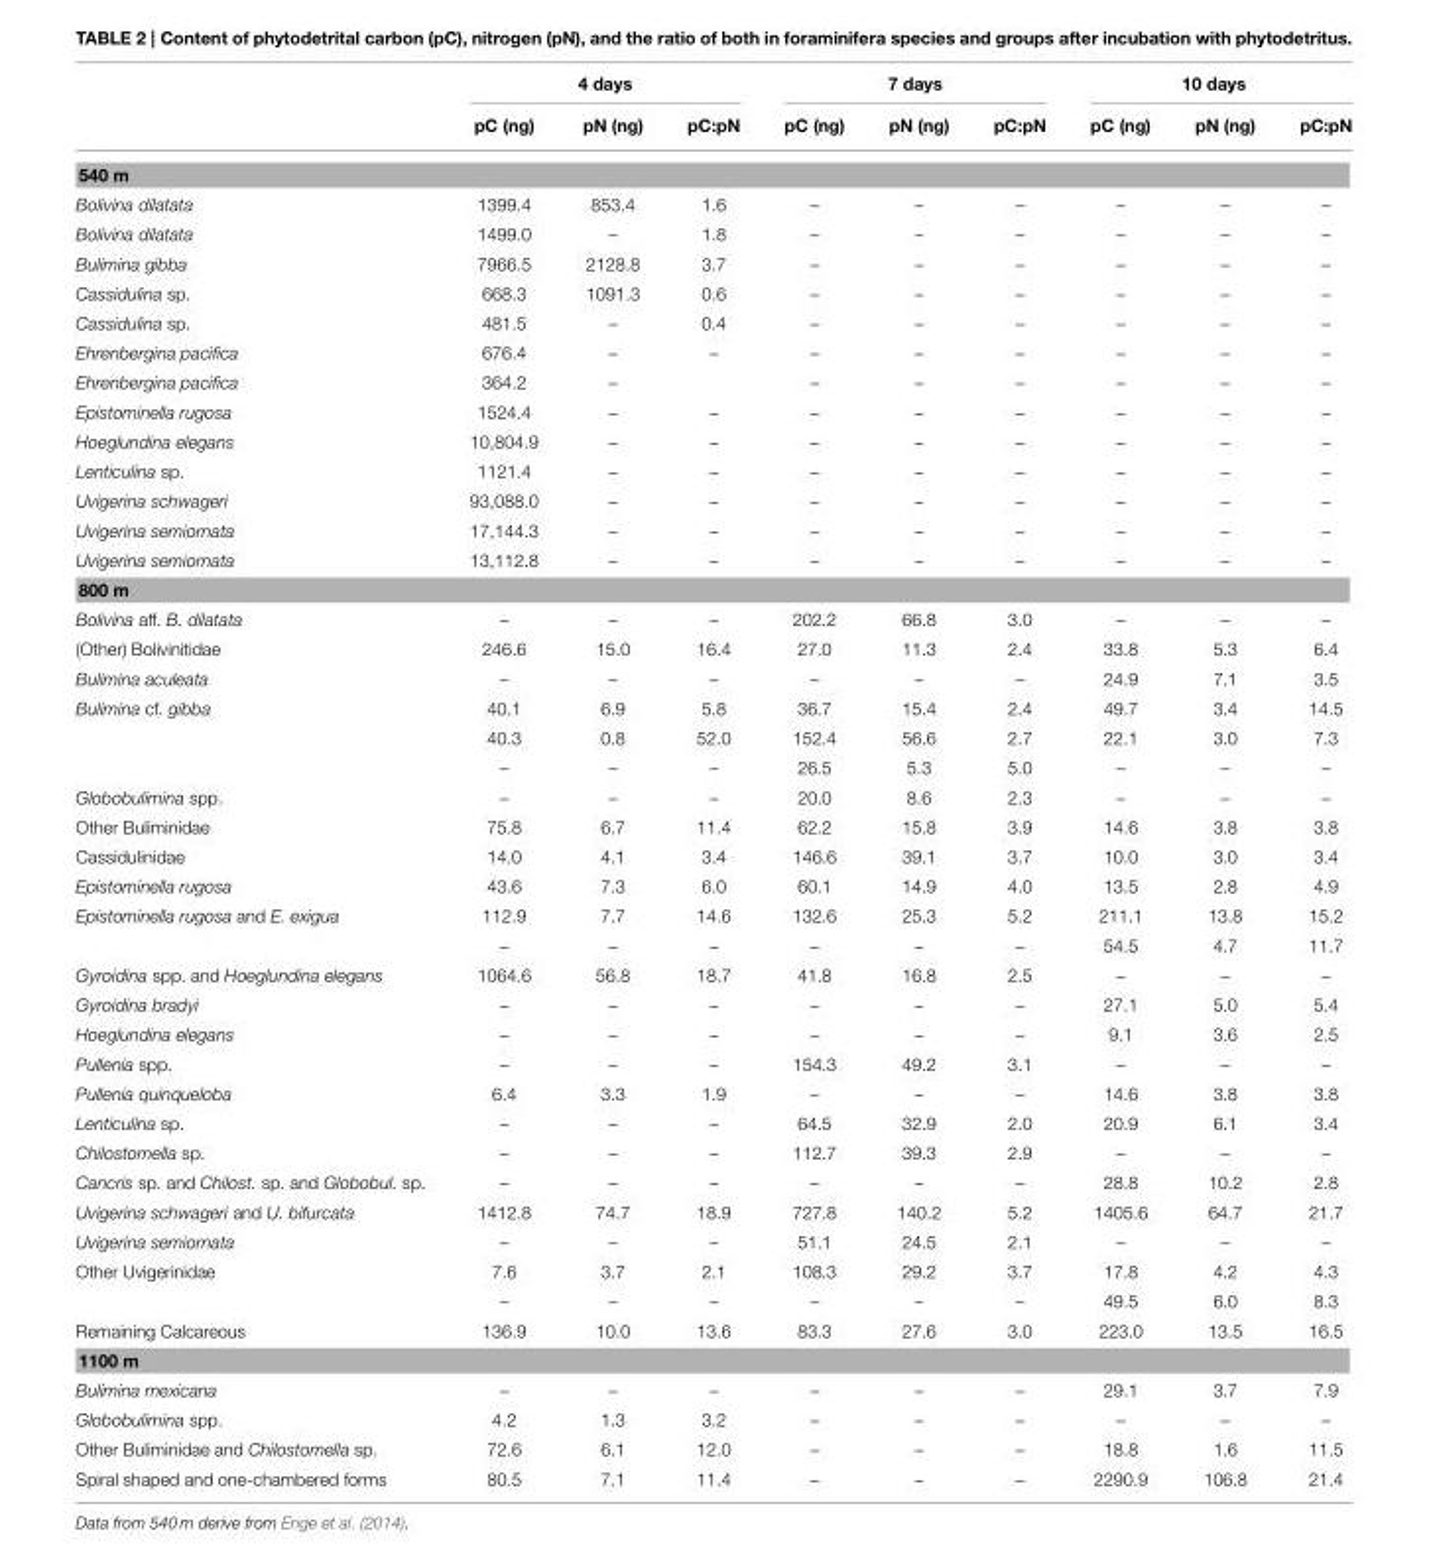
<table><thead><tr><td rowspan="2"></td><td colspan="3">4 days</td><td colspan="3">7 days</td><td colspan="3">10 days</td></tr><tr><td>pC (ng)</td><td>pN (ng)</td><td>pC:pN</td><td>pC (ng)</td><td>pN (ng)</td><td>pC:pN</td><td>pC (ng)</td><td>pN (ng)</td><td>pC:pN</td></tr></thead><tbody><tr><td colspan="10">540 m</td></tr><tr><td>Bolivina dilatata</td><td>1399.4</td><td>853.4</td><td>1.6</td><td>–</td><td>–</td><td>–</td><td>–</td><td>–</td><td>–</td></tr><tr><td>Bolivina dilatata</td><td>1499.0</td><td>–</td><td>1.8</td><td>–</td><td>–</td><td>–</td><td>–</td><td>–</td><td>–</td></tr><tr><td>Bulimina gibba</td><td>7966.5</td><td>2128.8</td><td>3.7</td><td>–</td><td>–</td><td>–</td><td>–</td><td>–</td><td>–</td></tr><tr><td>Cassidulina sp.</td><td>668.3</td><td>1091.3</td><td>0.6</td><td>–</td><td>–</td><td>–</td><td>–</td><td>–</td><td>–</td></tr><tr><td>Cassidulina sp.</td><td>481.5</td><td>–</td><td>0.4</td><td>–</td><td>–</td><td>–</td><td>–</td><td>–</td><td>–</td></tr><tr><td>Ehrenbergina pacifica</td><td>676.4</td><td>–</td><td>–</td><td>–</td><td>–</td><td>–</td><td>–</td><td>–</td><td>–</td></tr><tr><td>Ehrenbergina pacifica</td><td>364.2</td><td>–</td><td></td><td>–</td><td>–</td><td>–</td><td>–</td><td>–</td><td>–</td></tr><tr><td>Epistominella rugosa</td><td>1524.4</td><td>–</td><td>–</td><td>–</td><td>–</td><td>–</td><td>–</td><td>–</td><td>–</td></tr><tr><td>Hoeglundina elegans</td><td>10,804.9</td><td>–</td><td>–</td><td>–</td><td>–</td><td>–</td><td>–</td><td>–</td><td>–</td></tr><tr><td>Lenticulina sp.</td><td>1121.4</td><td>–</td><td>–</td><td>–</td><td>–</td><td>–</td><td>–</td><td>–</td><td>–</td></tr><tr><td>Uvigerina schwageri</td><td>93,088.0</td><td>–</td><td>–</td><td>–</td><td>–</td><td>–</td><td>–</td><td>–</td><td>–</td></tr><tr><td>Uvigerina semiornata</td><td>17,144.3</td><td>–</td><td>–</td><td>–</td><td>–</td><td>–</td><td>–</td><td>–</td><td>–</td></tr><tr><td>Uvigerina semiornata</td><td>13,112.8</td><td>–</td><td>–</td><td>–</td><td>–</td><td>–</td><td>–</td><td>–</td><td>–</td></tr><tr><td colspan="10">800 m</td></tr><tr><td>Bolivina aff. B. dilatata</td><td>–</td><td>–</td><td>–</td><td>202.2</td><td>66.8</td><td>3.0</td><td>–</td><td>–</td><td>–</td></tr><tr><td>(Other) Bolivinitidae</td><td>246.6</td><td>15.0</td><td>16.4</td><td>27.0</td><td>11.3</td><td>2.4</td><td>33.8</td><td>5.3</td><td>6.4</td></tr><tr><td>Bulimina aculeata</td><td>–</td><td>–</td><td>–</td><td>–</td><td>–</td><td>–</td><td>24.9</td><td>7.1</td><td>3.5</td></tr><tr><td rowspan="3">Bulimina cf. gibba</td><td>40.1</td><td>6.9</td><td>5.8</td><td>36.7</td><td>15.4</td><td>2.4</td><td>49.7</td><td>3.4</td><td>14.5</td></tr><tr><td>40.3</td><td>0.8</td><td>52.0</td><td>152.4</td><td>56.6</td><td>2.7</td><td>22.1</td><td>3.0</td><td>7.3</td></tr><tr><td>–</td><td>–</td><td>–</td><td>26.5</td><td>5.3</td><td>5.0</td><td>–</td><td>–</td><td>–</td></tr><tr><td>Globobulimina spp.</td><td>–</td><td>–</td><td>–</td><td>20.0</td><td>8.6</td><td>2.3</td><td>–</td><td>–</td><td>–</td></tr><tr><td>Other Buliminidae</td><td>75.8</td><td>6.7</td><td>11.4</td><td>62.2</td><td>15.8</td><td>3.9</td><td>14.6</td><td>3.8</td><td>3.8</td></tr><tr><td>Cassidulinidae</td><td>14.0</td><td>4.1</td><td>3.4</td><td>146.6</td><td>39.1</td><td>3.7</td><td>10.0</td><td>3.0</td><td>3.4</td></tr><tr><td>Epistominella rugosa</td><td>43.6</td><td>7.3</td><td>6.0</td><td>60.1</td><td>14.9</td><td>4.0</td><td>13.5</td><td>2.8</td><td>4.9</td></tr><tr><td rowspan="2">Epistominella rugosa and E. exigua</td><td>112.9</td><td>7.7</td><td>14.6</td><td>132.6</td><td>25.3</td><td>5.2</td><td>211.1</td><td>13.8</td><td>15.2</td></tr><tr><td>–</td><td>–</td><td>–</td><td>–</td><td>–</td><td>–</td><td>54.5</td><td>4.7</td><td>11.7</td></tr><tr><td>Gyroidina spp. and Hoeglundina elegans</td><td>1064.6</td><td>56.8</td><td>18.7</td><td>41.8</td><td>16.8</td><td>2.5</td><td>–</td><td>–</td><td>–</td></tr><tr><td>Gyroidina bradyi</td><td>–</td><td>–</td><td>–</td><td>–</td><td>–</td><td>–</td><td>27.1</td><td>5.0</td><td>5.4</td></tr><tr><td>Hoeglundina elegans</td><td>–</td><td>–</td><td>–</td><td>–</td><td>–</td><td>–</td><td>9.1</td><td>3.6</td><td>2.5</td></tr><tr><td>Pullenia spp.</td><td>–</td><td>–</td><td>–</td><td>154.3</td><td>49.2</td><td>3.1</td><td>–</td><td>–</td><td>–</td></tr><tr><td>Pullenia quinqueloba</td><td>6.4</td><td>3.3</td><td>1.9</td><td>–</td><td>–</td><td>–</td><td>14.6</td><td>3.8</td><td>3.8</td></tr><tr><td>Lenticulina sp.</td><td>–</td><td>–</td><td>–</td><td>64.5</td><td>32.9</td><td>2.0</td><td>20.9</td><td>6.1</td><td>3.4</td></tr><tr><td>Chilostomella sp.</td><td>–</td><td>–</td><td>–</td><td>112.7</td><td>39.3</td><td>2.9</td><td>–</td><td>–</td><td>–</td></tr><tr><td>Cancris sp. and Chilost. sp. and Globobul. sp.</td><td>–</td><td>–</td><td>–</td><td>–</td><td>–</td><td>–</td><td>28.8</td><td>10.2</td><td>2.8</td></tr><tr><td>Uvigerina schwageri and U. bifurcata</td><td>1412.8</td><td>74.7</td><td>18.9</td><td>727.8</td><td>140.2</td><td>5.2</td><td>1405.6</td><td>64.7</td><td>21.7</td></tr><tr><td>Uvigerina semiornata</td><td>–</td><td>–</td><td>–</td><td>51.1</td><td>24.5</td><td>2.1</td><td>–</td><td>–</td><td>–</td></tr><tr><td rowspan="2">Other Uvigerinidae</td><td>7.6</td><td>3.7</td><td>2.1</td><td>108.3</td><td>29.2</td><td>3.7</td><td>17.8</td><td>4.2</td><td>4.3</td></tr><tr><td>–</td><td>–</td><td>–</td><td>–</td><td>–</td><td>–</td><td>49.5</td><td>6.0</td><td>8.3</td></tr><tr><td>Remaining Calcareous</td><td>136.9</td><td>10.0</td><td>13.6</td><td>83.3</td><td>27.6</td><td>3.0</td><td>223.0</td><td>13.5</td><td>16.5</td></tr><tr><td colspan="10">1100 m</td></tr><tr><td>Bulimina mexicana</td><td>–</td><td>–</td><td>–</td><td>–</td><td>–</td><td>–</td><td>29.1</td><td>3.7</td><td>7.9</td></tr><tr><td>Globobulimina spp.</td><td>4.2</td><td>1.3</td><td>3.2</td><td>–</td><td>–</td><td>–</td><td>–</td><td>–</td><td>–</td></tr><tr><td>Other Buliminidae and Chilostomella sp.</td><td>72.6</td><td>6.1</td><td>12.0</td><td>–</td><td>–</td><td>–</td><td>18.8</td><td>1.6</td><td>11.5</td></tr><tr><td>Spiral shaped and one-chambered forms</td><td>80.5</td><td>7.1</td><td>11.4</td><td>–</td><td>–</td><td>–</td><td>2290.9</td><td>106.8</td><td>21.4</td></tr></tbody></table>